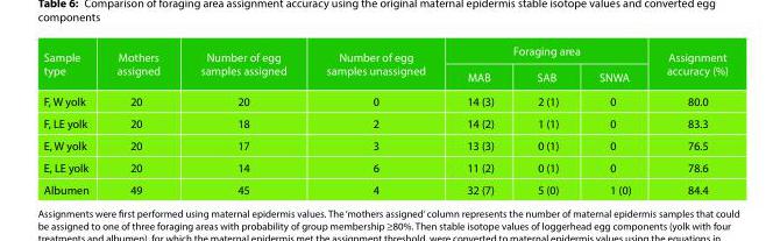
<table><thead><tr><td rowspan="2">Sample type</td><td rowspan="2">Mothers assigned</td><td rowspan="2">Number of egg samples assigned</td><td rowspan="2">Number of egg samples unassigned</td><td colspan="3">Foraging area</td><td rowspan="2">Assignment accuracy (%)</td></tr><tr><td>MAB</td><td>SAB</td><td>SNWA</td></tr></thead><tbody><tr><td>F, W yolk</td><td>20</td><td>20</td><td>0</td><td>14 (3)</td><td>2 (1)</td><td>0</td><td>80.0</td></tr><tr><td>F, LE yolk</td><td>20</td><td>18</td><td>2</td><td>14 (2)</td><td>1 (1)</td><td>0</td><td>83.3</td></tr><tr><td>E, W yolk</td><td>20</td><td>17</td><td>3</td><td>13 (3)</td><td>0 (1)</td><td>0</td><td>76.5</td></tr><tr><td>E, LE yolk</td><td>20</td><td>14</td><td>6</td><td>11 (2)</td><td>0 (1)</td><td>0</td><td>78.6</td></tr><tr><td>Albumen</td><td>49</td><td>45</td><td>4</td><td>32 (7)</td><td>5 (0)</td><td>1 (0)</td><td>84.4</td></tr></tbody></table>